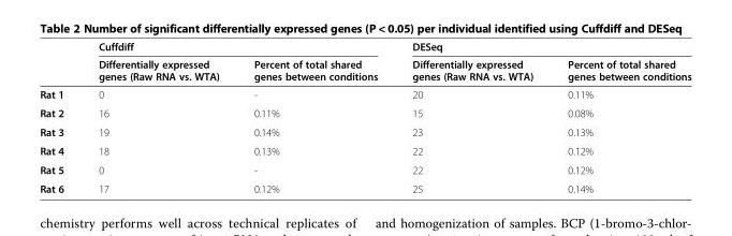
<table><thead><tr><td rowspan="2"></td><td colspan="2">Cuffdiff</td><td colspan="2">DESeq</td></tr><tr><td>Differentially expressed genes (Raw RNA vs. WTA)</td><td>Percent of total shared genes between conditions</td><td>Differentially expressed genes (Raw RNA vs. WTA)</td><td>Percent of total shared genes between conditions</td></tr></thead><tbody><tr><td>Rat 1</td><td>0</td><td>-</td><td>20</td><td>0.11%</td></tr><tr><td>Rat 2</td><td>16</td><td>0.11%</td><td>15</td><td>0.08%</td></tr><tr><td>Rat 3</td><td>19</td><td>0.14%</td><td>23</td><td>0.13%</td></tr><tr><td>Rat 4</td><td>18</td><td>0.13%</td><td>22</td><td>0.12%</td></tr><tr><td>Rat 5</td><td>0</td><td>-</td><td>22</td><td>0.12%</td></tr><tr><td>Rat 6</td><td>17</td><td>0.12%</td><td>25</td><td>0.14%</td></tr></tbody></table>